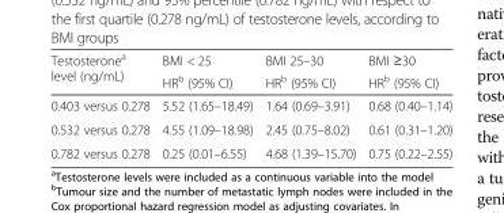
<table><thead><tr><td rowspan="2">Testosterone<sup>a</sup> level (ng/mL)</td><td rowspan="2">BMI &lt; 25 HR<sup>b</sup> (95% CI)</td><td rowspan="2">BMI 25–30 HR<sup>b</sup> (95% CI)</td><td rowspan="2">BMI ≥30 HR<sup>b</sup> (95% CI)</td></tr><tr></tr></thead><tbody><tr><td>0.403 versus 0.278</td><td>5.52 (1.65–18.49)</td><td>1.64 (0.69–3.91)</td><td>0.68 (0.40–1.14)</td></tr><tr><td>0.532 versus 0.278</td><td>4.55 (1.09–18.98)</td><td>2.45 (0.75–8.02)</td><td>0.61 (0.31–1.20)</td></tr><tr><td>0.782 versus 0.278</td><td>0.25 (0.01–6.55)</td><td>4.68 (1.39–15.70)</td><td>0.75 (0.22–2.55)</td></tr></tbody></table>